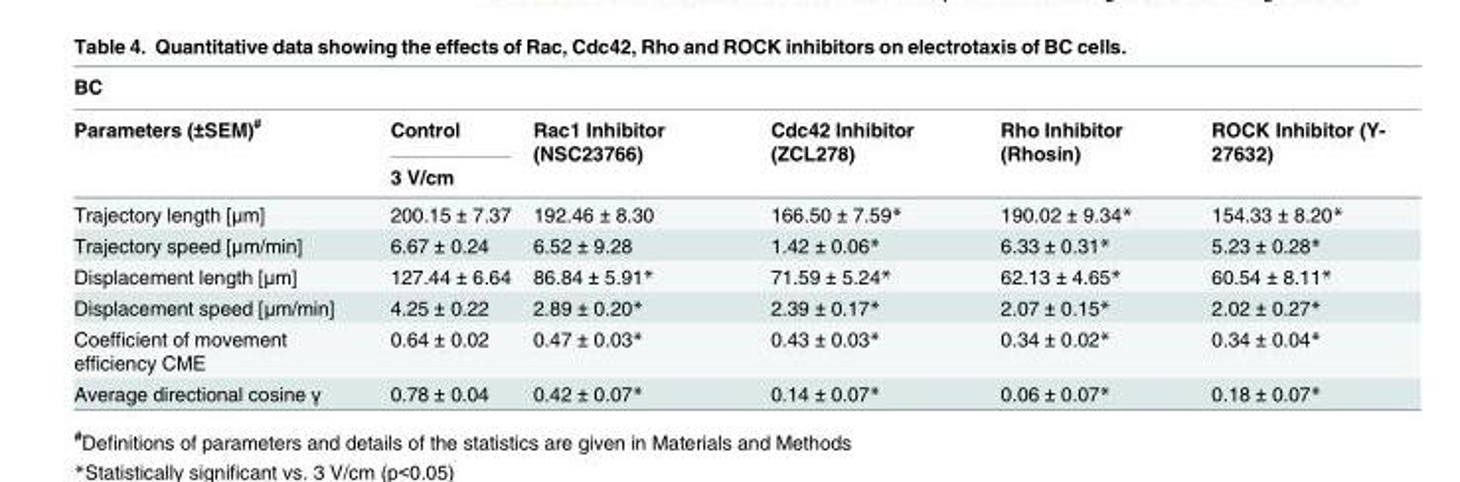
<table><thead><tr><td colspan="6">BC</td></tr><tr><td rowspan="2">Parameters (±SEM)<sup>#</sup></td><td>Control</td><td>Rac1 Inhibitor (NSC23766)</td><td>Cdc42 Inhibitor (ZCL278)</td><td>Rho Inhibitor (Rhosin)</td><td>ROCK Inhibitor (Y- 27632)</td></tr><tr><td colspan="5">3 V/cm</td></tr></thead><tbody><tr><td>Trajectory length [μm]</td><td>200.15 ± 7.37</td><td>192.46 ± 8.30</td><td>166.50 ± 7.59*</td><td>190.02 ± 9.34*</td><td>154.33 ± 8.20*</td></tr><tr><td>Trajectory speed [μm/min]</td><td>6.67 ± 0.24</td><td>6.52 ± 9.28</td><td>1.42 ± 0.06*</td><td>6.33 ± 0.31*</td><td>5.23 ± 0.28*</td></tr><tr><td>Displacement length [μm]</td><td>127.44 ± 6.64</td><td>86.84 ± 5.91*</td><td>71.59 ± 5.24*</td><td>62.13 ± 4.65*</td><td>60.54 ± 8.11*</td></tr><tr><td>Displacement speed [μm/min]</td><td>4.25 ± 0.22</td><td>2.89 ± 0.20*</td><td>2.39 ± 0.17*</td><td>2.07 ± 0.15*</td><td>2.02 ± 0.27*</td></tr><tr><td>Coefficient of movement efficiency CME</td><td>0.64 ± 0.02</td><td>0.47 ± 0.03*</td><td>0.43 ± 0.03*</td><td>0.34 ± 0.02*</td><td>0.34 ± 0.04*</td></tr><tr><td>Average directional cosine γ</td><td>0.78 ± 0.04</td><td>0.42 ± 0.07*</td><td>0.14 ± 0.07*</td><td>0.06 ± 0.07*</td><td>0.18 ± 0.07*</td></tr></tbody></table>